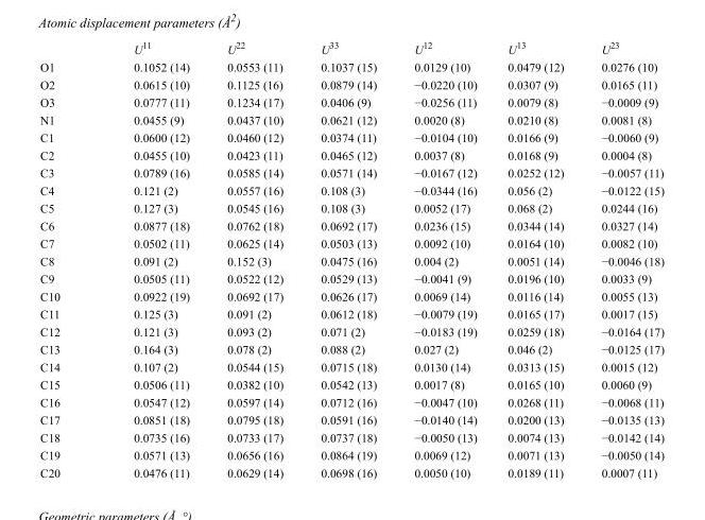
<table><thead><tr><td></td><td>U<sup>11</sup></td><td>U<sup>22</sup></td><td>U<sup>33</sup></td><td>U<sup>12</sup></td><td>U<sup>13</sup></td><td>U<sup>23</sup></td></tr></thead><tbody><tr><td>O1</td><td>0.1052 (14)</td><td>0.0553 (11)</td><td>0.1037 (15)</td><td>0.0129 (10)</td><td>0.0479 (12)</td><td>0.0276 (10)</td></tr><tr><td>O2</td><td>0.0615 (10)</td><td>0.1125 (16)</td><td>0.0879 (14)</td><td>−0.0220 (10)</td><td>0.0307 (9)</td><td>0.0165 (11)</td></tr><tr><td>O3</td><td>0.0777 (11)</td><td>0.1234 (17)</td><td>0.0406 (9)</td><td>−0.0256 (11)</td><td>0.0079 (8)</td><td>−0.0009 (9)</td></tr><tr><td>N1</td><td>0.0455 (9)</td><td>0.0437 (10)</td><td>0.0621 (12)</td><td>0.0020 (8)</td><td>0.0210 (8)</td><td>0.0081 (8)</td></tr><tr><td>C1</td><td>0.0600 (12)</td><td>0.0460 (12)</td><td>0.0374 (11)</td><td>−0.0104 (10)</td><td>0.0166 (9)</td><td>−0.0060 (9)</td></tr><tr><td>C2</td><td>0.0455 (10)</td><td>0.0423 (11)</td><td>0.0465 (12)</td><td>0.0037 (8)</td><td>0.0168 (9)</td><td>0.0004 (8)</td></tr><tr><td>C3</td><td>0.0789 (16)</td><td>0.0585 (14)</td><td>0.0571 (14)</td><td>−0.0167 (12)</td><td>0.0252 (12)</td><td>−0.0057 (11)</td></tr><tr><td>C4</td><td>0.121 (2)</td><td>0.0557 (16)</td><td>0.108 (3)</td><td>−0.0344 (16)</td><td>0.056 (2)</td><td>−0.0122 (15)</td></tr><tr><td>C5</td><td>0.127 (3)</td><td>0.0545 (16)</td><td>0.108 (3)</td><td>0.0052 (17)</td><td>0.068 (2)</td><td>0.0244 (16)</td></tr><tr><td>C6</td><td>0.0877 (18)</td><td>0.0762 (18)</td><td>0.0692 (17)</td><td>0.0236 (15)</td><td>0.0344 (14)</td><td>0.0327 (14)</td></tr><tr><td>C7</td><td>0.0502 (11)</td><td>0.0625 (14)</td><td>0.0503 (13)</td><td>0.0092 (10)</td><td>0.0164 (10)</td><td>0.0082 (10)</td></tr><tr><td>C8</td><td>0.091 (2)</td><td>0.152 (3)</td><td>0.0475 (16)</td><td>0.004 (2)</td><td>0.0051 (14)</td><td>−0.0046 (18)</td></tr><tr><td>C9</td><td>0.0505 (11)</td><td>0.0522 (12)</td><td>0.0529 (13)</td><td>−0.0041 (9)</td><td>0.0196 (10)</td><td>0.0033 (9)</td></tr><tr><td>C10</td><td>0.0922 (19)</td><td>0.0692 (17)</td><td>0.0626 (17)</td><td>0.0069 (14)</td><td>0.0116 (14)</td><td>0.0055 (13)</td></tr><tr><td>C11</td><td>0.125 (3)</td><td>0.091 (2)</td><td>0.0612 (18)</td><td>−0.0079 (19)</td><td>0.0165 (17)</td><td>0.0017 (15)</td></tr><tr><td>C12</td><td>0.121 (3)</td><td>0.093 (2)</td><td>0.071 (2)</td><td>−0.0183 (19)</td><td>0.0259 (18)</td><td>−0.0164 (17)</td></tr><tr><td>C13</td><td>0.164 (3)</td><td>0.078 (2)</td><td>0.088 (2)</td><td>0.027 (2)</td><td>0.046 (2)</td><td>−0.0125 (17)</td></tr><tr><td>C14</td><td>0.107 (2)</td><td>0.0544 (15)</td><td>0.0715 (18)</td><td>0.0130 (14)</td><td>0.0313 (15)</td><td>0.0015 (12)</td></tr><tr><td>C15</td><td>0.0506 (11)</td><td>0.0382 (10)</td><td>0.0542 (13)</td><td>0.0017 (8)</td><td>0.0165 (10)</td><td>0.0060 (9)</td></tr><tr><td>C16</td><td>0.0547 (12)</td><td>0.0597 (14)</td><td>0.0712 (16)</td><td>−0.0047 (10)</td><td>0.0268 (11)</td><td>−0.0068 (11)</td></tr><tr><td>C17</td><td>0.0851 (18)</td><td>0.0795 (18)</td><td>0.0591 (16)</td><td>−0.0140 (14)</td><td>0.0200 (13)</td><td>−0.0135 (13)</td></tr><tr><td>C18</td><td>0.0735 (16)</td><td>0.0733 (17)</td><td>0.0737 (18)</td><td>−0.0050 (13)</td><td>0.0074 (13)</td><td>−0.0142 (14)</td></tr><tr><td>C19</td><td>0.0571 (13)</td><td>0.0656 (16)</td><td>0.0864 (19)</td><td>0.0069 (12)</td><td>0.0071 (13)</td><td>−0.0050 (14)</td></tr><tr><td>C20</td><td>0.0476 (11)</td><td>0.0629 (14)</td><td>0.0698 (16)</td><td>0.0050 (10)</td><td>0.0189 (11)</td><td>0.0007 (11)</td></tr></tbody></table>